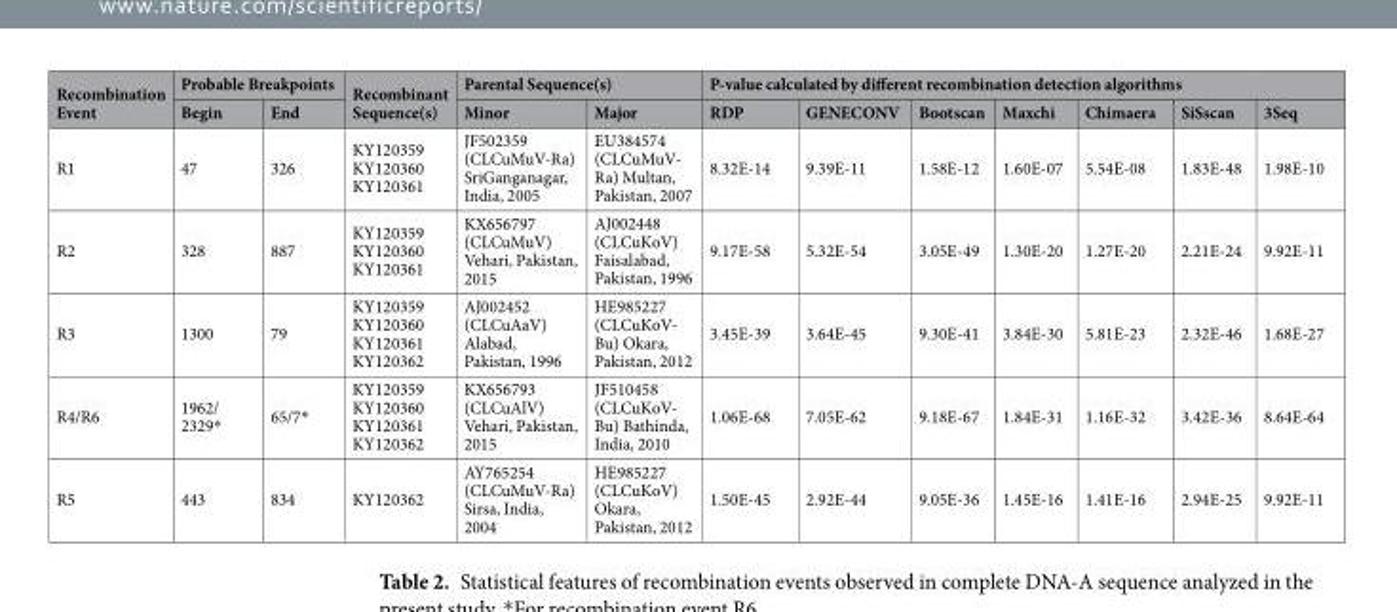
<table><thead><tr><td rowspan="2">Recombination Event</td><td colspan="2">Probable Breakpoints</td><td rowspan="2">Recombinant Sequence(s)</td><td colspan="2">Parental Sequence(s)</td><td colspan="7">P-value calculated by different recombination detection algorithms</td></tr><tr><td>Begin</td><td>End</td><td>Minor</td><td>Major</td><td>RDP</td><td>GENECONV</td><td>Bootscan</td><td>Maxchi</td><td>Chimaera</td><td>SiSscan</td><td>3Seq</td></tr></thead><tbody><tr><td>R1</td><td>47</td><td>326</td><td>KY120359 KY120360 KY120361</td><td>JF502359 (CLCuMuV-Ra) SriGanganagar, India, 2005</td><td>EU384574 (CLCuMuV- Ra) Multan, Pakistan, 2007</td><td>8.32E-14</td><td>9.39E-11</td><td>1.58E-12</td><td>1.60E-07</td><td>5.54E-08</td><td>1.83E-48</td><td>1.98E-10</td></tr><tr><td>R2</td><td>328</td><td>887</td><td>KY120359 KY120360 KY120361</td><td>KX656797 (CLCuMuV) Vehari, Pakistan, 2015</td><td>AJ002448 (CLCuKoV) Faisalabad, Pakistan, 1996</td><td>9.17E-58</td><td>5.32E-54</td><td>3.05E-49</td><td>1.30E-20</td><td>1.27E-20</td><td>2.21E-24</td><td>9.92E-11</td></tr><tr><td>R3</td><td>1300</td><td>79</td><td>KY120359 KY120360 KY120361 KY120362</td><td>AJ002452 (CLCuAaV) Alabad, Pakistan, 1996</td><td>HE985227 (CLCuKoV- Bu) Okara, Pakistan, 2012</td><td>3.45E-39</td><td>3.64E-45</td><td>9.30E-41</td><td>3.84E-30</td><td>5.81E-23</td><td>2.32E-46</td><td>1.68E-27</td></tr><tr><td>R4/R6</td><td>1962/ 2329*</td><td>65/7*</td><td>KY120359 KY120360 KY120361 KY120362</td><td>KX656793 (CLCuAlV) Vehari, Pakistan, 2015</td><td>JF510458 (CLCuKoV- Bu) Bathinda, India, 2010</td><td>1.06E-68</td><td>7.05E-62</td><td>9.18E-67</td><td>1.84E-31</td><td>1.16E-32</td><td>3.42E-36</td><td>8.64E-64</td></tr><tr><td>R5</td><td>443</td><td>834</td><td>KY120362</td><td>AY765254 (CLCuMuV-Ra) Sirsa, India, 2004</td><td>HE985227 (CLCuKoV) Okara, Pakistan, 2012</td><td>1.50E-45</td><td>2.92E-44</td><td>9.05E-36</td><td>1.45E-16</td><td>1.41E-16</td><td>2.94E-25</td><td>9.92E-11</td></tr></tbody></table>